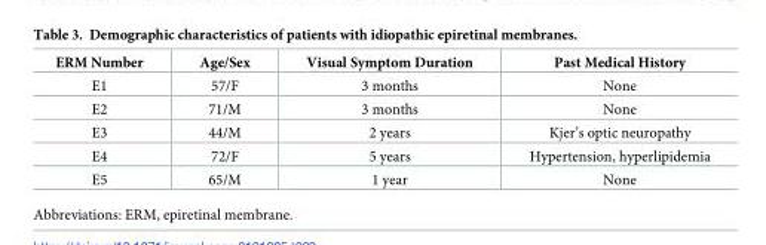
<table><thead><tr><td>ERM Number</td><td>Age/Sex</td><td>Visual Symptom Duration</td><td>Past Medical History</td></tr></thead><tbody><tr><td>E1</td><td>57/F</td><td>3 months</td><td>None</td></tr><tr><td>E2</td><td>71/M</td><td>3 months</td><td>None</td></tr><tr><td>E3</td><td>44/M</td><td>2 years</td><td>Kjer’s optic neuropathy</td></tr><tr><td>E4</td><td>72/F</td><td>5 years</td><td>Hypertension, hyperlipidemia</td></tr><tr><td>E5</td><td>65/M</td><td>1 year</td><td>None</td></tr></tbody></table>